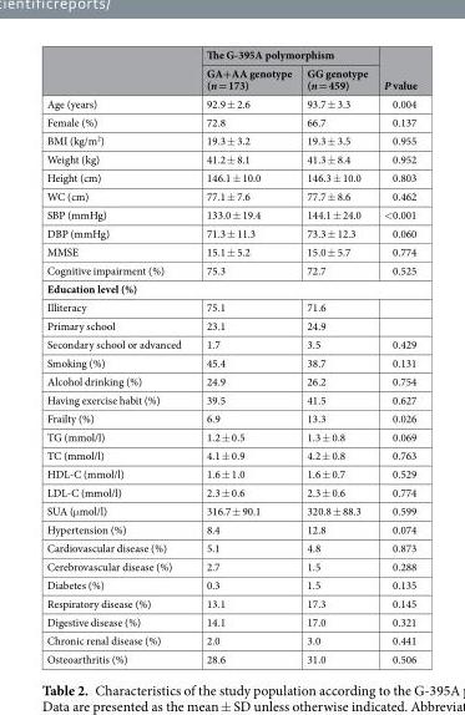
<table><thead><tr><td rowspan="2"></td><td colspan="2">The G-395A polymorphism</td><td rowspan="2">P value</td></tr><tr><td>GA+AA genotype (n = 173)</td><td>GG genotype (n = 459)</td></tr></thead><tbody><tr><td>Age (years)</td><td>92.9 ± 2.6</td><td>93.7 ± 3.3</td><td>0.004</td></tr><tr><td>Female (%)</td><td>72.8</td><td>66.7</td><td>0.137</td></tr><tr><td>BMI (kg/m<sup>2</sup>)</td><td>19.3 ± 3.2</td><td>19.3 ± 3.5</td><td>0.955</td></tr><tr><td>Weight (kg)</td><td>41.2 ± 8.1</td><td>41.3 ± 8.4</td><td>0.952</td></tr><tr><td>Height (cm)</td><td>146.1 ± 10.0</td><td>146.3 ± 10.0</td><td>0.803</td></tr><tr><td>WC (cm)</td><td>77.1 ± 7.6</td><td>77.7 ± 8.6</td><td>0.462</td></tr><tr><td>SBP (mmHg)</td><td>133.0 ± 19.4</td><td>144.1 ± 24.0</td><td>&lt;0.001</td></tr><tr><td>DBP (mmHg)</td><td>71.3 ± 11.3</td><td>73.3 ± 12.3</td><td>0.060</td></tr><tr><td>MMSE</td><td>15.1 ± 5.2</td><td>15.0 ± 5.7</td><td>0.774</td></tr><tr><td>Cognitive impairment (%)</td><td>75.3</td><td>72.7</td><td>0.525</td></tr><tr><td colspan="4">Education level (%)</td></tr><tr><td>Illiteracy</td><td>75.1</td><td>71.6</td><td></td></tr><tr><td>Primary school</td><td>23.1</td><td>24.9</td><td></td></tr><tr><td>Secondary school or advanced</td><td>1.7</td><td>3.5</td><td>0.429</td></tr><tr><td>Smoking (%)</td><td>45.4</td><td>38.7</td><td>0.131</td></tr><tr><td>Alcohol drinking (%)</td><td>24.9</td><td>26.2</td><td>0.754</td></tr><tr><td>Having exercise habit (%)</td><td>39.5</td><td>41.5</td><td>0.627</td></tr><tr><td>Frailty (%)</td><td>6.9</td><td>13.3</td><td>0.026</td></tr><tr><td>TG (mmol/l)</td><td>1.2 ± 0.5</td><td>1.3 ± 0.8</td><td>0.069</td></tr><tr><td>TC (mmol/l)</td><td>4.1 ± 0.9</td><td>4.2 ± 0.8</td><td>0.763</td></tr><tr><td>HDL-C (mmol/l)</td><td>1.6 ± 1.0</td><td>1.6 ± 0.7</td><td>0.529</td></tr><tr><td>LDL-C (mmol/l)</td><td>2.3 ± 0.6</td><td>2.3 ± 0.6</td><td>0.774</td></tr><tr><td>SUA (μmol/l)</td><td>316.7 ± 90.1</td><td>320.8 ± 88.3</td><td>0.599</td></tr><tr><td>Hypertension (%)</td><td>8.4</td><td>12.8</td><td>0.074</td></tr><tr><td>Cardiovascular disease (%)</td><td>5.1</td><td>4.8</td><td>0.873</td></tr><tr><td>Cerebrovascular disease (%)</td><td>2.7</td><td>1.5</td><td>0.288</td></tr><tr><td>Diabetes (%)</td><td>0.3</td><td>1.5</td><td>0.135</td></tr><tr><td>Respiratory disease (%)</td><td>13.1</td><td>17.3</td><td>0.145</td></tr><tr><td>Digestive disease (%)</td><td>14.1</td><td>17.0</td><td>0.321</td></tr><tr><td>Chronic renal disease (%)</td><td>2.0</td><td>3.0</td><td>0.441</td></tr><tr><td>Osteoarthritis (%)</td><td>28.6</td><td>31.0</td><td>0.506</td></tr></tbody></table>